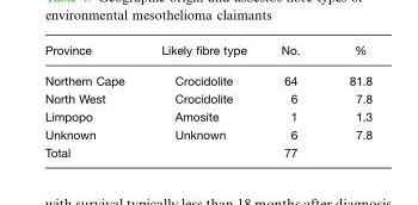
<table><thead><tr><td>Province</td><td>Likely fibre type</td><td>No.</td><td>%</td></tr></thead><tbody><tr><td>Northern Cape</td><td>Crocidolite</td><td>64</td><td>81.8</td></tr><tr><td>North West</td><td>Crocidolite</td><td>6</td><td>7.8</td></tr><tr><td>Limpopo</td><td>Amosite</td><td>1</td><td>1.3</td></tr><tr><td>Unknown</td><td>Unknown</td><td>6</td><td>7.8</td></tr><tr><td>Total</td><td></td><td>77</td><td></td></tr></tbody></table>